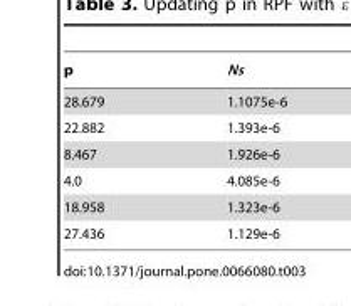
<table><thead><tr><td>p</td><td>Ns</td></tr></thead><tbody><tr><td>28.679</td><td>1.1075e-6</td></tr><tr><td>22.882</td><td>1.393e-6</td></tr><tr><td>8.467</td><td>1.926e-6</td></tr><tr><td>4.0</td><td>4.085e-6</td></tr><tr><td>18.958</td><td>1.323e-6</td></tr><tr><td>27.436</td><td>1.129e-6</td></tr></tbody></table>